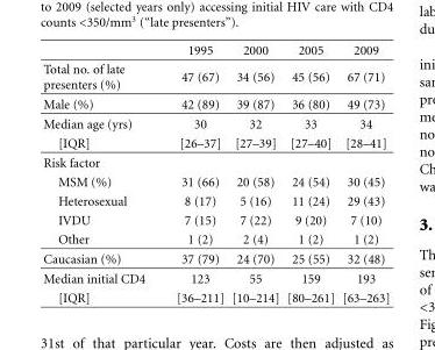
<table><thead><tr><td></td><td>1995</td><td>2000</td><td>2005</td><td>2009</td></tr></thead><tbody><tr><td>Total no. of late presenters (%)</td><td>47 (67)</td><td>34 (56)</td><td>45 (56)</td><td>67 (71)</td></tr><tr><td>Male (%)</td><td>42 (89)</td><td>39 (87)</td><td>36 (80)</td><td>49 (73)</td></tr><tr><td>Median age (yrs)</td><td>30</td><td>32</td><td>33</td><td>34</td></tr><tr><td>[IQR]</td><td>[26–37]</td><td>[27–39]</td><td>[27–40]</td><td>[28–41]</td></tr><tr><td colspan="5">Risk factor</td></tr><tr><td>MSM (%)</td><td>31 (66)</td><td>20 (58)</td><td>24 (54)</td><td>30 (45)</td></tr><tr><td>Heterosexual</td><td>8 (17)</td><td>5 (16)</td><td>11 (24)</td><td>29 (43)</td></tr><tr><td>IVDU</td><td>7 (15)</td><td>7 (22)</td><td>9 (20)</td><td>7 (10)</td></tr><tr><td>Other</td><td>1 (2)</td><td>2 (4)</td><td>1 (2)</td><td>1 (2)</td></tr><tr><td>Caucasian (%)</td><td>37 (79)</td><td>24 (70)</td><td>25 (55)</td><td>32 (48)</td></tr><tr><td>Median initial CD4</td><td>123</td><td>55</td><td>159</td><td>193</td></tr><tr><td>[IQR]</td><td>[36–211]</td><td>[10–214]</td><td>[80–261]</td><td>[63–263]</td></tr></tbody></table>